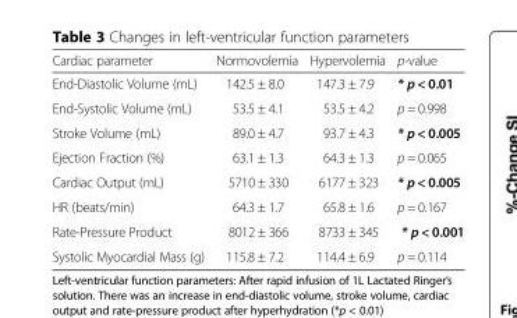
<table><thead><tr><td>Cardiac parameter</td><td>Normovolemia</td><td>Hypervolemia</td><td>p-value</td></tr></thead><tbody><tr><td>End-Diastolic Volume (mL)</td><td>142.5 ± 8.0</td><td>147.3 ± 7.9</td><td>* p &lt; 0.01</td></tr><tr><td>End-Systolic Volume (mL)</td><td>53.5 ± 4.1</td><td>53.5 ± 4.2</td><td>p = 0.998</td></tr><tr><td>Stroke Volume (mL)</td><td>89.0 ± 4.7</td><td>93.7 ± 4.3</td><td>* p &lt; 0.005</td></tr><tr><td>Ejection Fraction (%)</td><td>63.1 ± 1.3</td><td>64.3 ± 1.3</td><td>p = 0.065</td></tr><tr><td>Cardiac Output (mL)</td><td>5710 ± 330</td><td>6177 ± 323</td><td>* p &lt; 0.005</td></tr><tr><td>HR (beats/min)</td><td>64.3 ± 1.7</td><td>65.8 ± 1.6</td><td>p = 0.167</td></tr><tr><td>Rate-Pressure Product</td><td>8012 ± 366</td><td>8733 ± 345</td><td>* p &lt; 0.001</td></tr><tr><td>Systolic Myocardial Mass (g)</td><td>115.8 ± 7.2</td><td>114.4 ± 6.9</td><td>p = 0.114</td></tr></tbody></table>